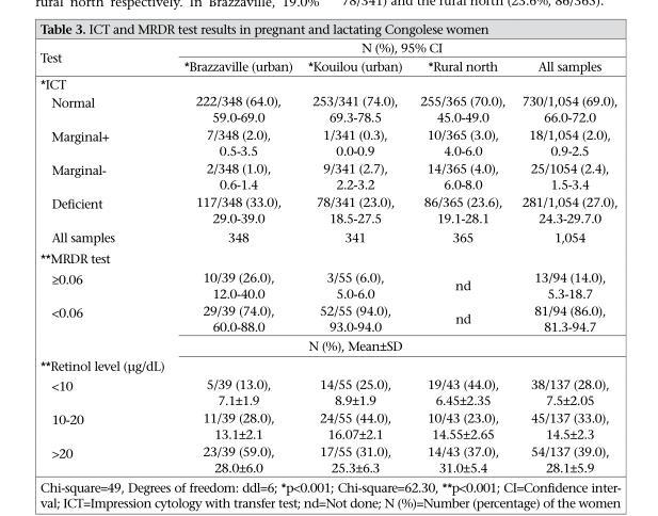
<table><thead><tr><td rowspan="2">Test</td><td colspan="4">N (%), 95% CI</td></tr><tr><td>*Brazzaville (urban)</td><td>*Kouilou (urban)</td><td>*Rural north</td><td>All samples</td></tr></thead><tbody><tr><td colspan="5">*ICT</td></tr><tr><td>Normal</td><td>222/348 (64.0), 59.0-69.0</td><td>253/341 (74.0), 69.3-78.5</td><td>255/365 (70.0), 45.0-49.0</td><td>730/1,054 (69.0), 66.0-72.0</td></tr><tr><td>Marginal+</td><td>7/348 (2.0), 0.5-3.5</td><td>1/341 (0.3), 0.0-0.9</td><td>10/365 (3.0), 4.0-6.0</td><td>18/1,054 (2.0), 0.9-2.5</td></tr><tr><td>Marginal-</td><td>2/348 (1.0), 0.6-1.4</td><td>9/341 (2.7), 2.2-3.2</td><td>14/365 (4.0), 6.0-8.0</td><td>25/1054 (2.4), 1.5-3.4</td></tr><tr><td>Deficient</td><td>117/348 (33.0), 29.0-39.0</td><td>78/341 (23.0), 18.5-27.5</td><td>86/365 (23.6), 19.1-28.1</td><td>281/1,054 (27.0), 24.3-29.7.0</td></tr><tr><td>All samples</td><td>348</td><td>341</td><td>365</td><td>1,054</td></tr><tr><td colspan="5">**MRDR test</td></tr><tr><td>≥0.06</td><td>10/39 (26.0), 12.0-40.0</td><td>3/55 (6.0), 5.0-6.0</td><td>nd</td><td>13/94 (14.0), 5.3-18.7</td></tr><tr><td rowspan="2">&lt;0.06</td><td>29/39 (74.0), 60.0-88.0</td><td>52/55 (94.0), 93.0-94.0</td><td>nd</td><td>81/94 (86.0), 81.3-94.7</td></tr><tr><td></td><td>N (%), Mean±SD</td><td></td><td></td></tr><tr><td colspan="5">**Retinol level (µg/dL)</td></tr><tr><td>&lt;10</td><td>5/39 (13.0), 7.1±1.9</td><td>14/55 (25.0), 8.9±1.9</td><td>19/43 (44.0), 6.45±2.35</td><td>38/137 (28.0), 7.5±2.05</td></tr><tr><td>10-20</td><td>11/39 (28.0), 13.1±2.1</td><td>24/55 (44.0), 16.07±2.1</td><td>10/43 (23.0), 14.55±2.65</td><td>45/137 (33.0), 14.5±2.3</td></tr><tr><td>&gt;20</td><td>23/39 (59.0), 28.0±6.0</td><td>17/55 (31.0), 25.3±6.3</td><td>14/43 (37.0), 31.0±5.4</td><td>54/137 (39.0), 28.1±5.9</td></tr></tbody></table>